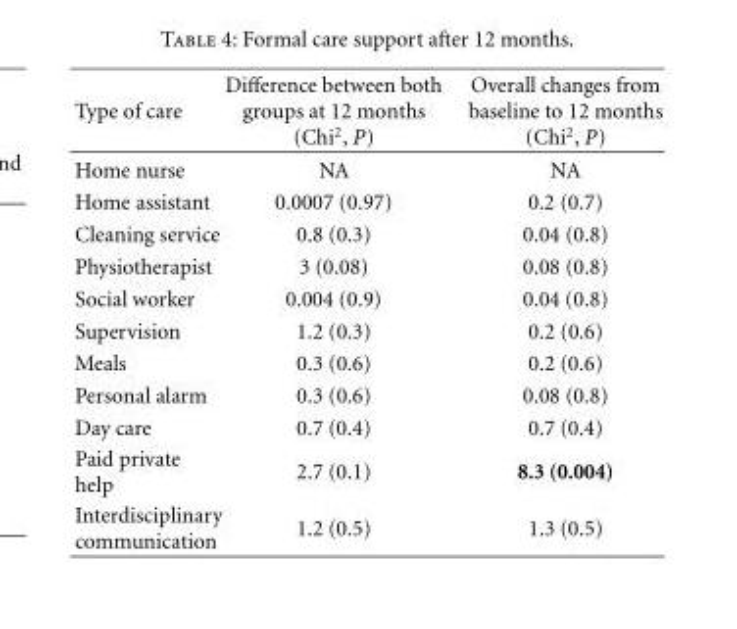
<table><thead><tr><td>Type of care</td><td>Difference between both groups at 12 months (Chi<sup>2</sup>, P)</td><td>Overall changes from baseline to 12 months (Chi<sup>2</sup>, P)</td></tr></thead><tbody><tr><td>Home nurse</td><td>NA</td><td>NA</td></tr><tr><td>Home assistant</td><td>0.0007 (0.97)</td><td>0.2 (0.7)</td></tr><tr><td>Cleaning service</td><td>0.8 (0.3)</td><td>0.04 (0.8)</td></tr><tr><td>Physiotherapist</td><td>3 (0.08)</td><td>0.08 (0.8)</td></tr><tr><td>Social worker</td><td>0.004 (0.9)</td><td>0.04 (0.8)</td></tr><tr><td>Supervision</td><td>1.2 (0.3)</td><td>0.2 (0.6)</td></tr><tr><td>Meals</td><td>0.3 (0.6)</td><td>0.2 (0.6)</td></tr><tr><td>Personal alarm</td><td>0.3 (0.6)</td><td>0.08 (0.8)</td></tr><tr><td>Day care</td><td>0.7 (0.4)</td><td>0.7 (0.4)</td></tr><tr><td>Paid private help</td><td>2.7 (0.1)</td><td>8.3 (0.004)</td></tr><tr><td>Interdisciplinary communication</td><td>1.2 (0.5)</td><td>1.3 (0.5)</td></tr></tbody></table>